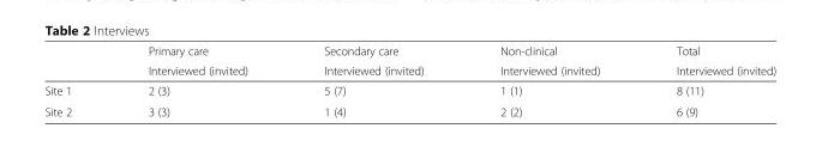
<table><thead><tr><td rowspan="2"></td><td rowspan="2">Primary care Interviewed (invited)</td><td rowspan="2">Secondary care Interviewed (invited)</td><td rowspan="2">Non-clinical Interviewed (invited)</td><td rowspan="2">Total Interviewed (invited)</td></tr><tr></tr></thead><tbody><tr><td>Site 1</td><td>2 (3)</td><td>5 (7)</td><td>1 (1)</td><td>8 (11)</td></tr><tr><td>Site 2</td><td>3 (3)</td><td>1 (4)</td><td>2 (2)</td><td>6 (9)</td></tr></tbody></table>